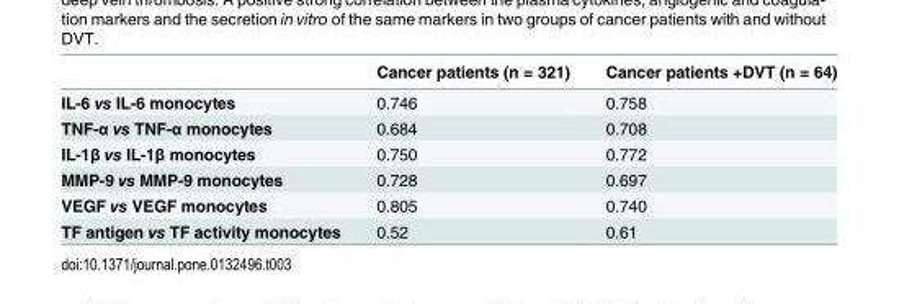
<table><thead><tr><td></td><td>Cancer patients (n = 321)</td><td>Cancer patients +DVT (n = 64)</td></tr></thead><tbody><tr><td>IL-6 vs IL-6 monocytes</td><td>0.746</td><td>0.758</td></tr><tr><td>TNF-α vs TNF-α monocytes</td><td>0.684</td><td>0.708</td></tr><tr><td>IL-1β vs IL-1β monocytes</td><td>0.750</td><td>0.772</td></tr><tr><td>MMP-9 vs MMP-9 monocytes</td><td>0.728</td><td>0.697</td></tr><tr><td>VEGF vs VEGF monocytes</td><td>0.805</td><td>0.740</td></tr><tr><td>TF antigen vs TF activity monocytes</td><td>0.52</td><td>0.61</td></tr></tbody></table>